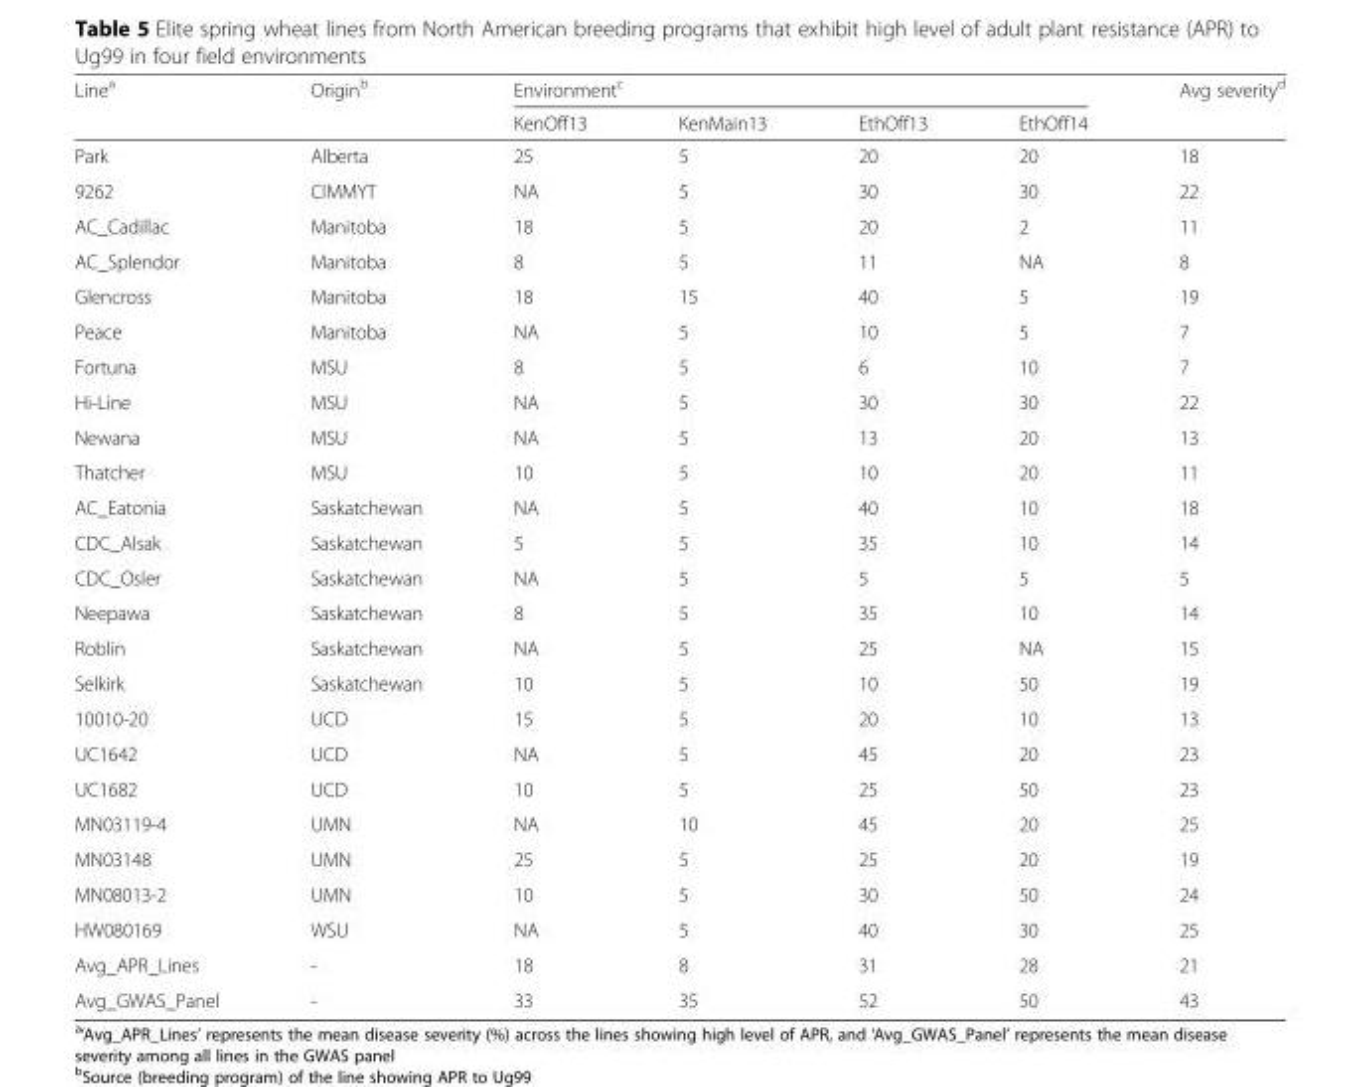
<table><thead><tr><td rowspan="2">Line<sup>a</sup></td><td rowspan="2">Origin<sup>b</sup></td><td colspan="4">Environment<sup>c</sup></td><td rowspan="2">Avg severity<sup>d</sup></td></tr><tr><td>KenOff13</td><td>KenMain13</td><td>EthOff13</td><td>EthOff14</td></tr></thead><tbody><tr><td>Park</td><td>Alberta</td><td>25</td><td>5</td><td>20</td><td>20</td><td>18</td></tr><tr><td>9262</td><td>CIMMYT</td><td>NA</td><td>5</td><td>30</td><td>30</td><td>22</td></tr><tr><td>AC_Cadillac</td><td>Manitoba</td><td>18</td><td>5</td><td>20</td><td>2</td><td>11</td></tr><tr><td>AC_Splendor</td><td>Manitoba</td><td>8</td><td>5</td><td>11</td><td>NA</td><td>8</td></tr><tr><td>Glencross</td><td>Manitoba</td><td>18</td><td>15</td><td>40</td><td>5</td><td>19</td></tr><tr><td>Peace</td><td>Manitoba</td><td>NA</td><td>5</td><td>10</td><td>5</td><td>7</td></tr><tr><td>Fortuna</td><td>MSU</td><td>8</td><td>5</td><td>6</td><td>10</td><td>7</td></tr><tr><td>Hi-Line</td><td>MSU</td><td>NA</td><td>5</td><td>30</td><td>30</td><td>22</td></tr><tr><td>Newana</td><td>MSU</td><td>NA</td><td>5</td><td>13</td><td>20</td><td>13</td></tr><tr><td>Thatcher</td><td>MSU</td><td>10</td><td>5</td><td>10</td><td>20</td><td>11</td></tr><tr><td>AC_Eatonia</td><td>Saskatchewan</td><td>NA</td><td>5</td><td>40</td><td>10</td><td>18</td></tr><tr><td>CDC_Alsak</td><td>Saskatchewan</td><td>5</td><td>5</td><td>35</td><td>10</td><td>14</td></tr><tr><td>CDC_Osler</td><td>Saskatchewan</td><td>NA</td><td>5</td><td>5</td><td>5</td><td>5</td></tr><tr><td>Neepawa</td><td>Saskatchewan</td><td>8</td><td>5</td><td>35</td><td>10</td><td>14</td></tr><tr><td>Roblin</td><td>Saskatchewan</td><td>NA</td><td>5</td><td>25</td><td>NA</td><td>15</td></tr><tr><td>Selkirk</td><td>Saskatchewan</td><td>10</td><td>5</td><td>10</td><td>50</td><td>19</td></tr><tr><td>10010-20</td><td>UCD</td><td>15</td><td>5</td><td>20</td><td>10</td><td>13</td></tr><tr><td>UC1642</td><td>UCD</td><td>NA</td><td>5</td><td>45</td><td>20</td><td>23</td></tr><tr><td>UC1682</td><td>UCD</td><td>10</td><td>5</td><td>25</td><td>50</td><td>23</td></tr><tr><td>MN03119-4</td><td>UMN</td><td>NA</td><td>10</td><td>45</td><td>20</td><td>25</td></tr><tr><td>MN03148</td><td>UMN</td><td>25</td><td>5</td><td>25</td><td>20</td><td>19</td></tr><tr><td>MN08013-2</td><td>UMN</td><td>10</td><td>5</td><td>30</td><td>50</td><td>24</td></tr><tr><td>HW080169</td><td>WSU</td><td>NA</td><td>5</td><td>40</td><td>30</td><td>25</td></tr><tr><td>Avg_APR_Lines</td><td>-</td><td>18</td><td>8</td><td>31</td><td>28</td><td>21</td></tr><tr><td>Avg_GWAS_Panel</td><td>-</td><td>33</td><td>35</td><td>52</td><td>50</td><td>43</td></tr></tbody></table>